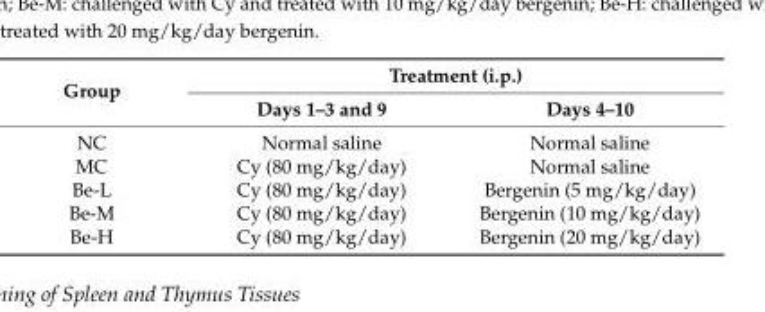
<table><thead><tr><td rowspan="2">Group</td><td colspan="2">Treatment (i.p.)</td></tr><tr><td>Days 1–3 and 9</td><td>Days 4–10</td></tr></thead><tbody><tr><td>NC</td><td>Normal saline</td><td>Normal saline</td></tr><tr><td>MC</td><td>Cy (80 mg/kg/day)</td><td>Normal saline</td></tr><tr><td>Be-L</td><td>Cy (80 mg/kg/day)</td><td>Bergenin (5 mg/kg/day)</td></tr><tr><td>Be-M</td><td>Cy (80 mg/kg/day)</td><td>Bergenin (10 mg/kg/day)</td></tr><tr><td>Be-H</td><td>Cy (80 mg/kg/day)</td><td>Bergenin (20 mg/kg/day)</td></tr></tbody></table>